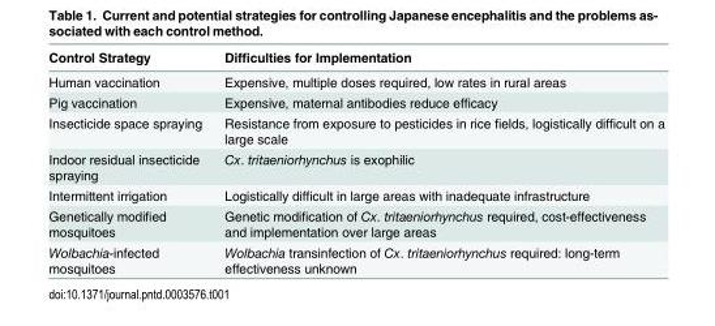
<table><thead><tr><td>Control Strategy</td><td>Difficulties for Implementation</td></tr></thead><tbody><tr><td>Human vaccination</td><td>Expensive, multiple doses required, low rates in rural areas</td></tr><tr><td>Pig vaccination</td><td>Expensive, maternal antibodies reduce efficacy</td></tr><tr><td>Insecticide space spraying</td><td>Resistance from exposure to pesticides in rice fields, logistically difficult on a large scale</td></tr><tr><td>Indoor residual insecticide spraying</td><td>Cx. tritaeniorhynchus is exophilic</td></tr><tr><td>Intermittent irrigation</td><td>Logistically difficult in large areas with inadequate infrastructure</td></tr><tr><td>Genetically modified mosquitoes</td><td>Genetic modification of Cx. tritaeniorhynchus required, cost-effectiveness and implementation over large areas</td></tr><tr><td>Wolbachia-infected mosquitoes</td><td>Wolbachia transinfection of Cx. tritaeniorhynchus required: long-term effectiveness unknown</td></tr></tbody></table>